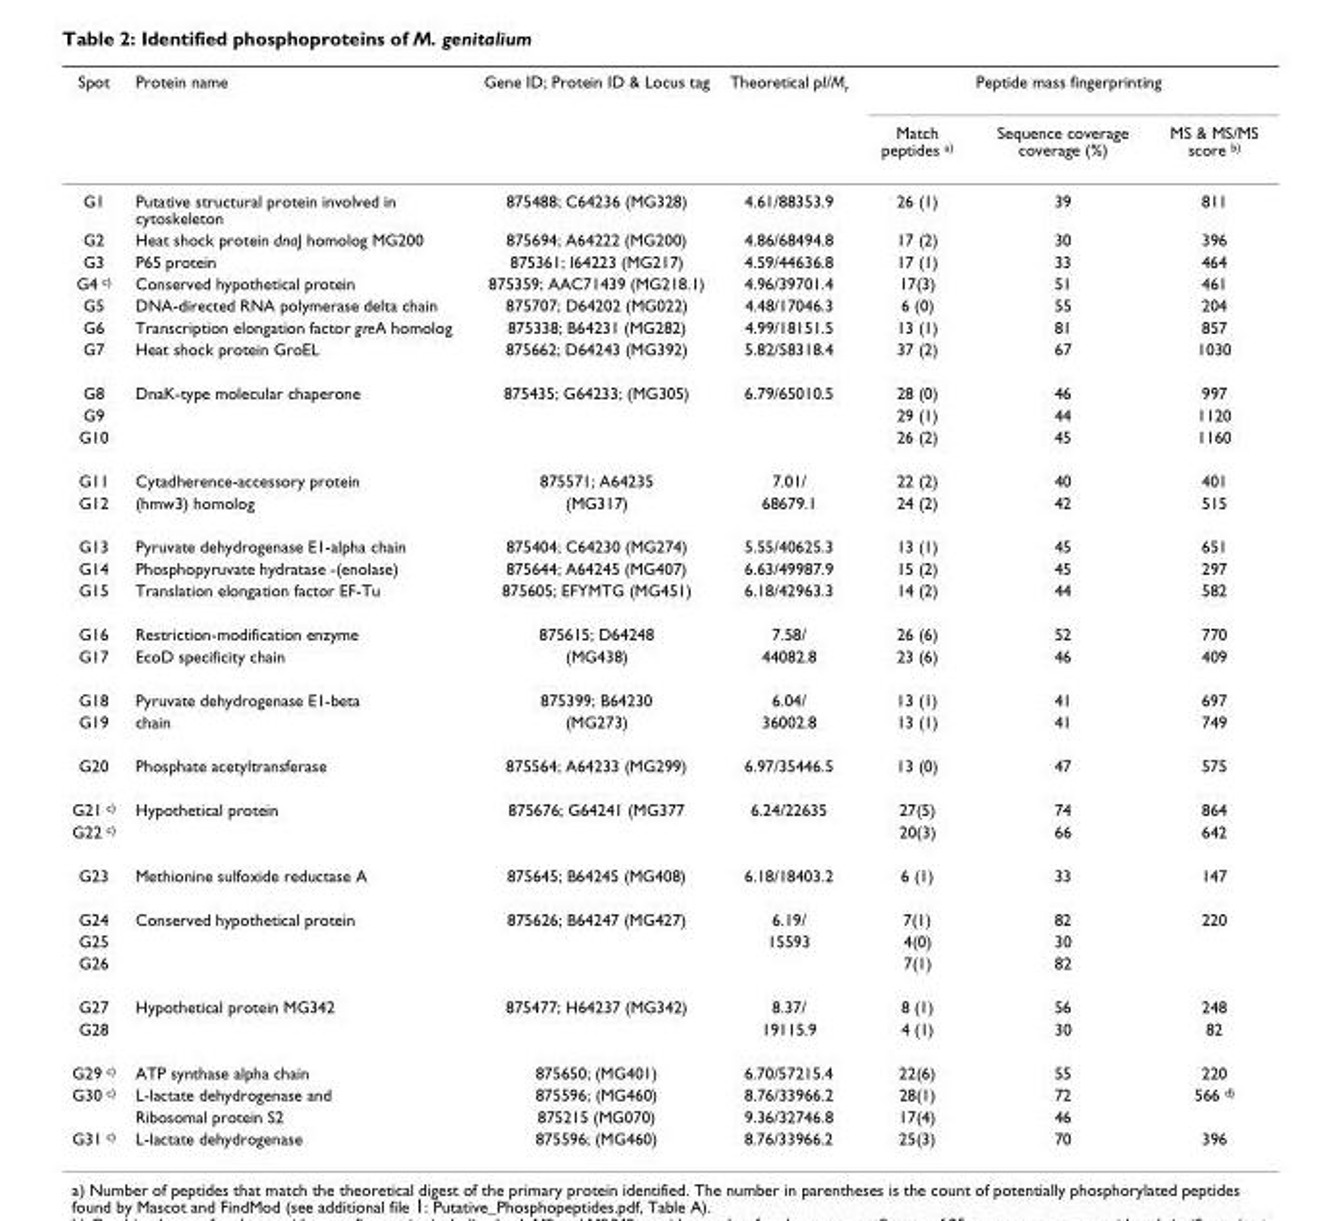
<table><thead><tr><td rowspan="2">Spot</td><td rowspan="2">Protein name</td><td rowspan="2">Gene ID; Protein ID &amp; Locus tag</td><td rowspan="2">Theoretical pI/M<sub>r</sub></td><td colspan="3">Peptide mass fingerprinting</td></tr><tr><td>Match peptides <sup>a)</sup></td><td>Sequence coverage coverage (%)</td><td>MS &amp; MS/MS score <sup>b)</sup></td></tr></thead><tbody><tr><td>G1</td><td>Putative structural protein involved in cytoskeleton</td><td>875488; C64236 (MG328)</td><td>4.61/88353.9</td><td>26 (1)</td><td>39</td><td>811</td></tr><tr><td>G2</td><td>Heat shock protein dnaJ homolog MG200</td><td>875694; A64222 (MG200)</td><td>4.86/68494.8</td><td>17 (2)</td><td>30</td><td>396</td></tr><tr><td>G3</td><td>P65 protein</td><td>875361; I64223 (MG217)</td><td>4.59/44636.8</td><td>17 (1)</td><td>33</td><td>464</td></tr><tr><td>G4 <sup>c)</sup></td><td>Conserved hypothetical protein</td><td>875359; AAC71439 (MG218.1)</td><td>4.96/39701.4</td><td>17(3)</td><td>51</td><td>461</td></tr><tr><td>G5</td><td>DNA-directed RNA polymerase delta chain</td><td>875707; D64202 (MG022)</td><td>4.48/17046.3</td><td>6 (0)</td><td>55</td><td>204</td></tr><tr><td>G6</td><td>Transcription elongation factor greA homolog</td><td>875338; B64231 (MG282)</td><td>4.99/18151.5</td><td>13 (1)</td><td>81</td><td>857</td></tr><tr><td>G7</td><td>Heat shock protein GroEL</td><td>875662; D64243 (MG392)</td><td>5.82/58318.4</td><td>37 (2)</td><td>67</td><td>1030</td></tr><tr><td>G8</td><td>DnaK-type molecular chaperone</td><td>875435; G64233; (MG305)</td><td>6.79/65010.5</td><td>28 (0)</td><td>46</td><td>997</td></tr><tr><td>G9</td><td></td><td></td><td></td><td>29 (1)</td><td>44</td><td>1120</td></tr><tr><td>G10</td><td></td><td></td><td></td><td>26 (2)</td><td>45</td><td>1160</td></tr><tr><td>G11</td><td>Cytadherence-accessory protein</td><td>875571; A64235</td><td>7.01/</td><td>22 (2)</td><td>40</td><td>401</td></tr><tr><td>G12</td><td>(hmw3) homolog</td><td>(MG317)</td><td>68679.1</td><td>24 (2)</td><td>42</td><td>515</td></tr><tr><td>G13</td><td>Pyruvate dehydrogenase E1-alpha chain</td><td>875404; C64230 (MG274)</td><td>5.55/40625.3</td><td>13 (1)</td><td>45</td><td>651</td></tr><tr><td>G14</td><td>Phosphopyruvate hydratase -(enolase)</td><td>875644; A64245 (MG407)</td><td>6.63/49987.9</td><td>15 (2)</td><td>45</td><td>297</td></tr><tr><td>G15</td><td>Translation elongation factor EF-Tu</td><td>875605; EFYMTG (MG451)</td><td>6.18/42963.3</td><td>14 (2)</td><td>44</td><td>582</td></tr><tr><td>G16</td><td>Restriction-modification enzyme</td><td>875615; D64248</td><td>7.58/</td><td>26 (6)</td><td>52</td><td>770</td></tr><tr><td>G17</td><td>EcoD specificity chain</td><td>(MG438)</td><td>44082.8</td><td>23 (6)</td><td>46</td><td>409</td></tr><tr><td>G18</td><td>Pyruvate dehydrogenase E1-beta</td><td>875399; B64230</td><td>6.04/</td><td>13 (1)</td><td>41</td><td>697</td></tr><tr><td>G19</td><td>chain</td><td>(MG273)</td><td>36002.8</td><td>13 (1)</td><td>41</td><td>749</td></tr><tr><td>G20</td><td>Phosphate acetyltransferase</td><td>875564; A64233 (MG299)</td><td>6.97/35446.5</td><td>13 (0)</td><td>47</td><td>575</td></tr><tr><td>G21 <sup>c)</sup></td><td>Hypothetical protein</td><td>875676; G64241 (MG377</td><td>6.24/22635</td><td>27(5)</td><td>74</td><td>864</td></tr><tr><td>G22 <sup>c)</sup></td><td></td><td></td><td></td><td>20(3)</td><td>66</td><td>642</td></tr><tr><td>G23</td><td>Methionine sulfoxide reductase A</td><td>875645; B64245 (MG408)</td><td>6.18/18403.2</td><td>6 (1)</td><td>33</td><td>147</td></tr><tr><td>G24</td><td>Conserved hypothetical protein</td><td>875626; B64247 (MG427)</td><td>6.19/</td><td>7(1)</td><td>82</td><td>220</td></tr><tr><td>G25</td><td></td><td></td><td>15593</td><td>4(0)</td><td>30</td><td></td></tr><tr><td>G26</td><td></td><td></td><td></td><td>7(1)</td><td>82</td><td></td></tr><tr><td>G27</td><td>Hypothetical protein MG342</td><td>875477; H64237 (MG342)</td><td>8.37/</td><td>8 (1)</td><td>56</td><td>248</td></tr><tr><td>G28</td><td></td><td></td><td>19115.9</td><td>4 (1)</td><td>30</td><td>82</td></tr><tr><td>G29 <sup>c)</sup></td><td>ATP synthase alpha chain</td><td>875650; (MG401)</td><td>6.70/57215.4</td><td>22(6)</td><td>55</td><td>220</td></tr><tr><td rowspan="2">G30 <sup>c)</sup></td><td>L-lactate dehydrogenase and</td><td>875596; (MG460)</td><td>8.76/33966.2</td><td>28(1)</td><td>72</td><td>566 <sup>d)</sup></td></tr><tr><td>Ribosomal protein S2</td><td>875215 (MG070)</td><td>9.36/32746.8</td><td>17(4)</td><td>46</td><td></td></tr><tr><td>G31 <sup>c)</sup></td><td>L-lactate dehydrogenase</td><td>875596; (MG460)</td><td>8.76/33966.2</td><td>25(3)</td><td>70</td><td>396</td></tr></tbody></table>